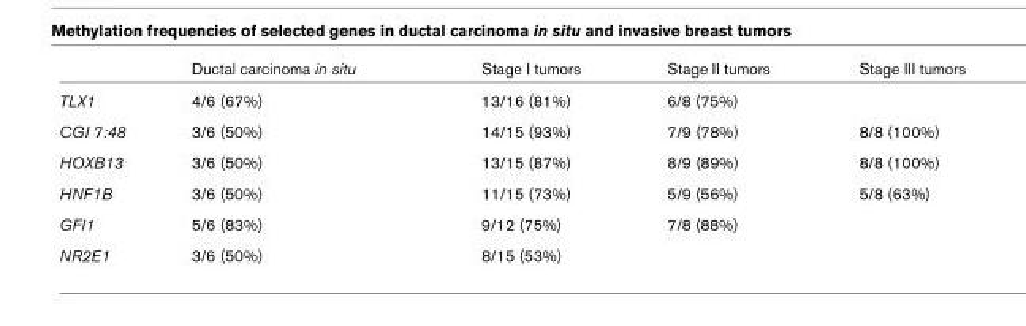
<table><thead><tr><td></td><td>Ductal carcinoma in situ</td><td>Stage I tumors</td><td>Stage II tumors</td><td>Stage III tumors</td></tr></thead><tbody><tr><td>TLX1</td><td>4/6 (67%)</td><td>13/16 (81%)</td><td>6/8 (75%)</td><td></td></tr><tr><td>CGI 7:48</td><td>3/6 (50%)</td><td>14/15 (93%)</td><td>7/9 (78%)</td><td>8/8 (100%)</td></tr><tr><td>HOXB13</td><td>3/6 (50%)</td><td>13/15 (87%)</td><td>8/9 (89%)</td><td>8/8 (100%)</td></tr><tr><td>HNF1B</td><td>3/6 (50%)</td><td>11/15 (73%)</td><td>5/9 (56%)</td><td>5/8 (63%)</td></tr><tr><td>GFI1</td><td>5/6 (83%)</td><td>9/12 (75%)</td><td>7/8 (88%)</td><td></td></tr><tr><td>NR2E1</td><td>3/6 (50%)</td><td>8/15 (53%)</td><td></td><td></td></tr></tbody></table>